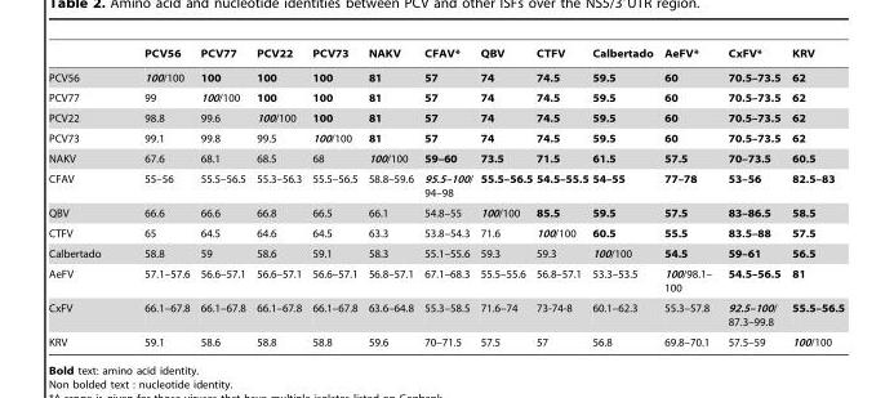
<table><thead><tr><td></td><td>PCV56</td><td>PCV77</td><td>PCV22</td><td>PCV73</td><td>NAKV</td><td>CFAV*</td><td>QBV</td><td>CTFV</td><td>Calbertado</td><td>AeFV*</td><td>CxFV*</td><td>KRV</td></tr></thead><tbody><tr><td>PCV56</td><td>100/100</td><td>100</td><td>100</td><td>100</td><td>81</td><td>57</td><td>74</td><td>74.5</td><td>59.5</td><td>60</td><td>70.5–73.5</td><td>62</td></tr><tr><td>PCV77</td><td>99</td><td>100/100</td><td>100</td><td>100</td><td>81</td><td>57</td><td>74</td><td>74.5</td><td>59.5</td><td>60</td><td>70.5–73.5</td><td>62</td></tr><tr><td>PCV22</td><td>98.8</td><td>99.6</td><td>100/100</td><td>100</td><td>81</td><td>57</td><td>74</td><td>74.5</td><td>59.5</td><td>60</td><td>70.5–73.5</td><td>62</td></tr><tr><td>PCV73</td><td>99.1</td><td>99.8</td><td>99.5</td><td>100/100</td><td>81</td><td>57</td><td>74</td><td>74.5</td><td>59.5</td><td>60</td><td>70.5–73.5</td><td>62</td></tr><tr><td>NAKV</td><td>67.6</td><td>68.1</td><td>68.5</td><td>68</td><td>100/100</td><td>59–60</td><td>73.5</td><td>71.5</td><td>61.5</td><td>57.5</td><td>70–73.5</td><td>60.5</td></tr><tr><td>CFAV</td><td>55–56</td><td>55.5–56.5</td><td>55.3–56.3</td><td>55.5–56.5</td><td>58.8–59.6</td><td>95.5–100/ 94–98</td><td>55.5–56.5</td><td>54.5–55.5</td><td>54–55</td><td>77–78</td><td>53–56</td><td>82.5–83</td></tr><tr><td>QBV</td><td>66.6</td><td>66.6</td><td>66.8</td><td>66.5</td><td>66.1</td><td>54.8–55</td><td>100/100</td><td>85.5</td><td>59.5</td><td>57.5</td><td>83–86.5</td><td>58.5</td></tr><tr><td>CTFV</td><td>65</td><td>64.5</td><td>64.6</td><td>64.5</td><td>63.3</td><td>53.8–54.3</td><td>71.6</td><td>100/100</td><td>60.5</td><td>55.5</td><td>83.5–88</td><td>57.5</td></tr><tr><td>Calbertado</td><td>58.8</td><td>59</td><td>58.6</td><td>59.1</td><td>58.3</td><td>55.1–55.6</td><td>59.3</td><td>59.3</td><td>100/100</td><td>54.5</td><td>59–61</td><td>56.5</td></tr><tr><td>AeFV</td><td>57.1–57.6</td><td>56.6–57.1</td><td>56.6–57.1</td><td>56.6–57.1</td><td>56.8–57.1</td><td>67.1–68.3</td><td>55.5–55.6</td><td>56.8–57.1</td><td>53.3–53.5</td><td>100/98.1– 100</td><td>54.5–56.5</td><td>81</td></tr><tr><td>CxFV</td><td>66.1–67.8</td><td>66.1–67.8</td><td>66.1–67.8</td><td>66.1–67.8</td><td>63.6–64.8</td><td>55.3–58.5</td><td>71.6–74</td><td>73-74-8</td><td>60.1–62.3</td><td>55.3–57.8</td><td>92.5–100/ 87.3–99.8</td><td>55.5–56.5</td></tr><tr><td>KRV</td><td>59.1</td><td>58.6</td><td>58.8</td><td>58.8</td><td>59.6</td><td>70–71.5</td><td>57.5</td><td>57</td><td>56.8</td><td>69.8–70.1</td><td>57.5–59</td><td>100/100</td></tr></tbody></table>